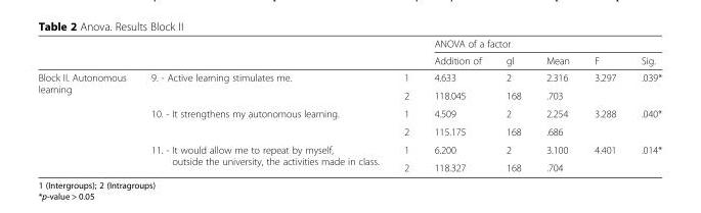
<table><thead><tr><td rowspan="2"></td><td rowspan="2"></td><td rowspan="2"></td><td colspan="5">ANOVA of a factor</td></tr><tr><td>Addition of</td><td>gl</td><td>Mean</td><td>F</td><td>Sig.</td></tr></thead><tbody><tr><td rowspan="6">Block II. Autonomous learning</td><td rowspan="2">9. - Active learning stimulates me.</td><td>1</td><td>4.633</td><td>2</td><td>2.316</td><td>3.297</td><td>.039*</td></tr><tr><td>2</td><td>118.045</td><td>168</td><td>.703</td><td></td><td></td></tr><tr><td rowspan="2">10. - It strengthens my autonomous learning.</td><td>1</td><td>4.509</td><td>2</td><td>2.254</td><td>3.288</td><td>.040*</td></tr><tr><td>2</td><td>115.175</td><td>168</td><td>.686</td><td></td><td></td></tr><tr><td rowspan="2">11. - It would allow me to repeat by myself, outside the university, the activities made in class.</td><td>1</td><td>6.200</td><td>2</td><td>3.100</td><td>4.401</td><td>.014*</td></tr><tr><td>2</td><td>118.327</td><td>168</td><td>.704</td><td></td><td></td></tr></tbody></table>